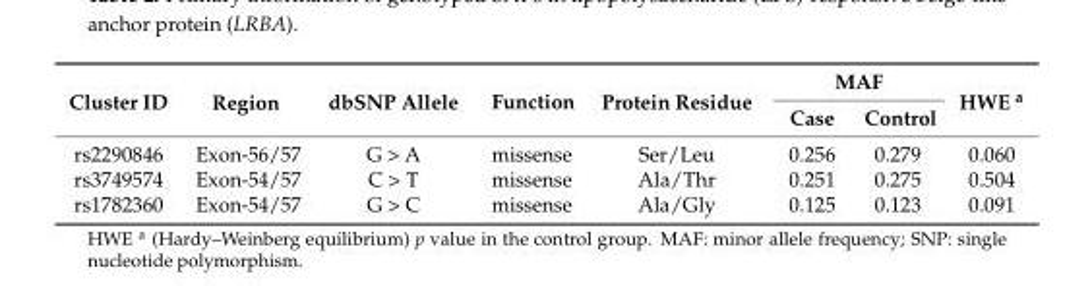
<table><thead><tr><td rowspan="2">Cluster ID</td><td rowspan="2">Region</td><td rowspan="2">dbSNP Allele</td><td rowspan="2">Function</td><td rowspan="2">Protein Residue</td><td colspan="2">MAF</td><td rowspan="2">HWE <sup>a</sup></td></tr><tr><td>Case</td><td>Control</td></tr></thead><tbody><tr><td>rs2290846</td><td>Exon-56/57</td><td>G &gt; A</td><td>missense</td><td>Ser/Leu</td><td>0.256</td><td>0.279</td><td>0.060</td></tr><tr><td>rs3749574</td><td>Exon-54/57</td><td>C &gt; T</td><td>missense</td><td>Ala/Thr</td><td>0.251</td><td>0.275</td><td>0.504</td></tr><tr><td>rs1782360</td><td>Exon-54/57</td><td>G &gt; C</td><td>missense</td><td>Ala/Gly</td><td>0.125</td><td>0.123</td><td>0.091</td></tr></tbody></table>